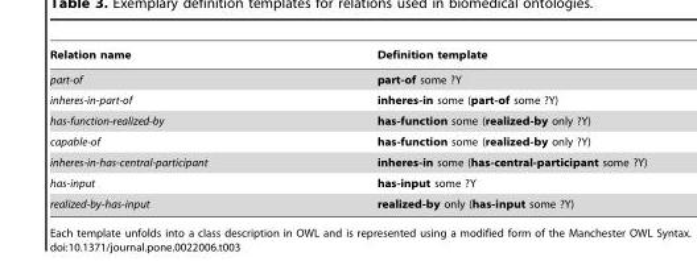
<table><thead><tr><td>Relation name</td><td>Definition template</td></tr></thead><tbody><tr><td>part-of</td><td>part-of some ?Y</td></tr><tr><td>inheres-in-part-of</td><td>inheres-in some (part-of some ?Y)</td></tr><tr><td>has-function-realized-by</td><td>has-function some (realized-by only ?Y)</td></tr><tr><td>capable-of</td><td>has-function some (realized-by only ?Y)</td></tr><tr><td>inheres-in-has-central-participant</td><td>inheres-in some (has-central-participant some ?Y)</td></tr><tr><td>has-input</td><td>has-input some ?Y</td></tr><tr><td>realized-by-has-input</td><td>realized-by only (has-input some ?Y)</td></tr></tbody></table>